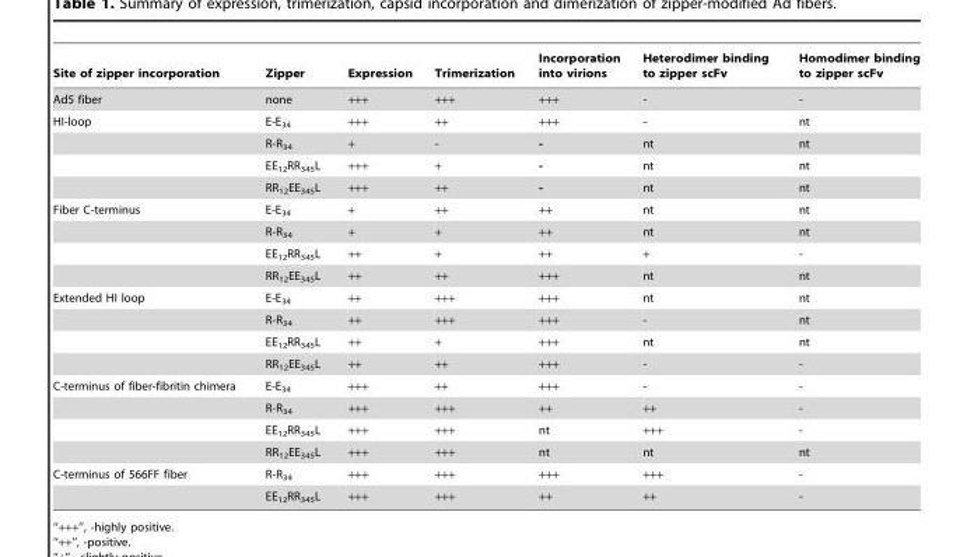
<table><thead><tr><td>Site of zipper incorporation</td><td>Zipper</td><td>Expression</td><td>Trimerization</td><td>Incorporation into virions</td><td>Heterodimer binding to zipper scFv</td><td>Homodimer binding to zipper scFv</td></tr></thead><tbody><tr><td>Ad5 fiber</td><td>none</td><td>+++</td><td>+++</td><td>+++</td><td>-</td><td>-</td></tr><tr><td rowspan="4">HI-loop</td><td>E-E<sub>34</sub></td><td>+++</td><td>++</td><td>+++</td><td>-</td><td>nt</td></tr><tr><td>R-R<sub>34</sub></td><td>+</td><td>-</td><td>-</td><td>nt</td><td>nt</td></tr><tr><td>EE<sub>12</sub>RR<sub>345</sub>L</td><td>+++</td><td>+</td><td>-</td><td>nt</td><td>nt</td></tr><tr><td>RR<sub>12</sub>EE<sub>345</sub>L</td><td>+++</td><td>++</td><td>-</td><td>nt</td><td>nt</td></tr><tr><td rowspan="4">Fiber C-terminus</td><td>E-E<sub>34</sub></td><td>+</td><td>++</td><td>++</td><td>nt</td><td>nt</td></tr><tr><td>R-R<sub>34</sub></td><td>+</td><td>+</td><td>++</td><td>nt</td><td>nt</td></tr><tr><td>EE<sub>12</sub>RR<sub>345</sub>L</td><td>++</td><td>+</td><td>++</td><td>+</td><td>-</td></tr><tr><td>RR<sub>12</sub>EE<sub>345</sub>L</td><td>++</td><td>++</td><td>+++</td><td>nt</td><td>nt</td></tr><tr><td rowspan="4">Extended HI loop</td><td>E-E<sub>34</sub></td><td>++</td><td>+++</td><td>+++</td><td>nt</td><td>nt</td></tr><tr><td>R-R<sub>34</sub></td><td>++</td><td>+++</td><td>+++</td><td>-</td><td>nt</td></tr><tr><td>EE<sub>12</sub>RR<sub>345</sub>L</td><td>++</td><td>+</td><td>+++</td><td>nt</td><td>nt</td></tr><tr><td>RR<sub>12</sub>EE<sub>345</sub>L</td><td>++</td><td>++</td><td>+++</td><td>-</td><td>-</td></tr><tr><td rowspan="4">C-terminus of fiber-fibritin chimera</td><td>E-E<sub>34</sub></td><td>+++</td><td>++</td><td>+++</td><td>-</td><td>-</td></tr><tr><td>R-R<sub>34</sub></td><td>+++</td><td>+++</td><td>++</td><td>++</td><td>-</td></tr><tr><td>EE<sub>12</sub>RR<sub>345</sub>L</td><td>+++</td><td>+++</td><td>nt</td><td>+++</td><td>-</td></tr><tr><td>RR<sub>12</sub>EE<sub>345</sub>L</td><td>+++</td><td>+++</td><td>nt</td><td>nt</td><td>nt</td></tr><tr><td rowspan="2">C-terminus of 566FF fiber</td><td>R-R<sub>34</sub></td><td>+++</td><td>+++</td><td>+++</td><td>+++</td><td>-</td></tr><tr><td>EE<sub>12</sub>RR<sub>345</sub>L</td><td>+++</td><td>+++</td><td>++</td><td>++</td><td>-</td></tr></tbody></table>